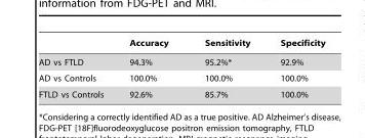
<table><thead><tr><td></td><td>Accuracy</td><td>Sensitivity</td><td>Specificity</td></tr></thead><tbody><tr><td>AD vs FTLD</td><td>94.3%</td><td>95.2%*</td><td>92.9%</td></tr><tr><td>AD vs Controls</td><td>100.0%</td><td>100.0%</td><td>100.0%</td></tr><tr><td>FTLD vs Controls</td><td>92.6%</td><td>85.7%</td><td>100.0%</td></tr></tbody></table>